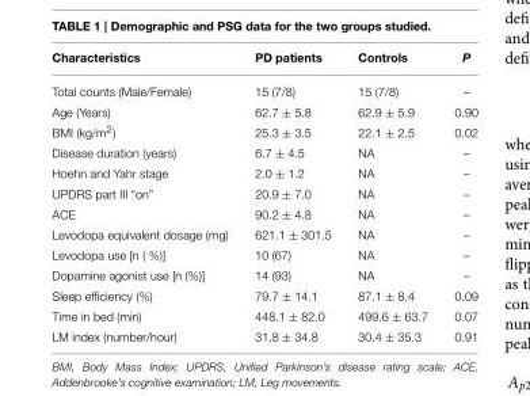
<table><thead><tr><td>Characteristics</td><td>PD patients</td><td>Controls</td><td>P</td></tr></thead><tbody><tr><td>Total counts (Male/Female)</td><td>15 (7/8)</td><td>15 (7/8)</td><td>–</td></tr><tr><td>Age (Years)</td><td>62.7 ± 5.8</td><td>62.9 ± 5.9</td><td>0.90</td></tr><tr><td>BMI (kg/m<sup>2</sup>)</td><td>25.3 ± 3.5</td><td>22.1 ± 2.5</td><td>0.02</td></tr><tr><td>Disease duration (years)</td><td>6.7 ± 4.5</td><td>NA</td><td>–</td></tr><tr><td>Hoehn and Yahr stage</td><td>2.0 ± 1.2</td><td>NA</td><td>–</td></tr><tr><td>UPDRS part III “on”</td><td>20.9 ± 7.0</td><td>NA</td><td>–</td></tr><tr><td>ACE</td><td>90.2 ± 4.8</td><td>NA</td><td>–</td></tr><tr><td>Levodopa equivalent dosage (mg)</td><td>621.1 ± 301.5</td><td>NA</td><td>–</td></tr><tr><td>Levodopa use [n ( %)]</td><td>10 (67)</td><td>NA</td><td>–</td></tr><tr><td>Dopamine agonist use [n (%)]</td><td>14 (93)</td><td>NA</td><td>–</td></tr><tr><td>Sleep efficiency (%)</td><td>79.7 ± 14.1</td><td>87.1 ± 8.4</td><td>0.09</td></tr><tr><td>Time in bed (min)</td><td>448.1 ± 82.0</td><td>499.6 ± 63.7</td><td>0.07</td></tr><tr><td>LM index (number/hour)</td><td>31.8 ± 34.8</td><td>30.4 ± 35.3</td><td>0.91</td></tr></tbody></table>